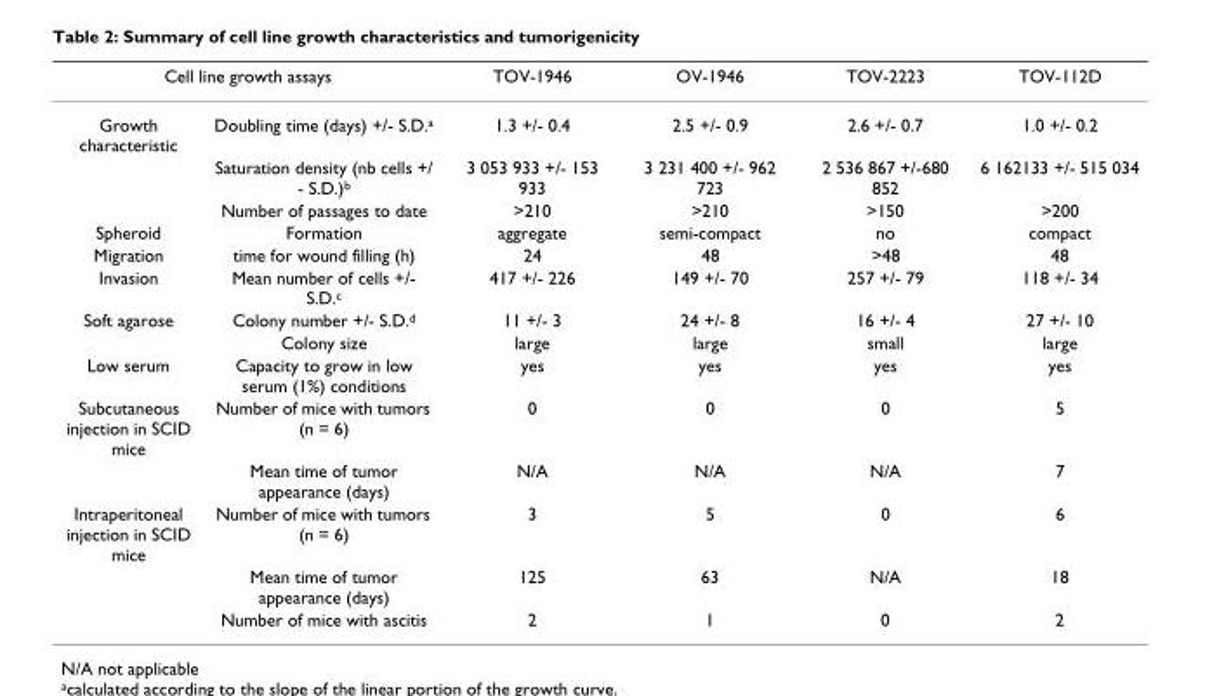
<table><thead><tr><td colspan="2">Cell line growth assays</td><td rowspan="2">TOV-1946 1.3 +/- 0.4</td><td rowspan="2">OV-1946 2.5 +/- 0.9</td><td rowspan="2">TOV-2223 2.6 +/- 0.7</td><td rowspan="2">TOV-112D 1.0 +/- 0.2</td></tr><tr><td>Growth characteristic</td><td>Doubling time (days) +/- S.D.<sup>a</sup></td></tr></thead><tbody><tr><td></td><td>Saturation density (nb cells +/ - S.D.)<sup>b</sup></td><td>3 053 933 +/- 153 933</td><td>3 231 400 +/- 962 723</td><td>2 536 867 +/-680 852</td><td>6 162133 +/- 515 034</td></tr><tr><td></td><td>Number of passages to date</td><td>&gt;210</td><td>&gt;210</td><td>&gt;150</td><td>&gt;200</td></tr><tr><td>Spheroid</td><td>Formation</td><td>aggregate</td><td>semi-compact</td><td>no</td><td>compact</td></tr><tr><td>Migration</td><td>time for wound filling (h)</td><td>24</td><td>48</td><td>&gt;48</td><td>48</td></tr><tr><td>Invasion</td><td>Mean number of cells +/- S.D.<sup>c</sup></td><td>417 +/- 226</td><td>149 +/- 70</td><td>257 +/- 79</td><td>118 +/- 34</td></tr><tr><td rowspan="2">Soft agarose</td><td>Colony number +/- S.D.<sup>d</sup></td><td>11 +/- 3</td><td>24 +/- 8</td><td>16 +/- 4</td><td>27 +/- 10</td></tr><tr><td>Colony size</td><td>large</td><td>large</td><td>small</td><td>large</td></tr><tr><td>Low serum</td><td>Capacity to grow in low serum (1%) conditions</td><td>yes</td><td>yes</td><td>yes</td><td>yes</td></tr><tr><td rowspan="2">Subcutaneous injection in SCID mice</td><td>Number of mice with tumors (n = 6)</td><td>0</td><td>0</td><td>0</td><td>5</td></tr><tr><td>Mean time of tumor appearance (days)</td><td>N/A</td><td>N/A</td><td>N/A</td><td>7</td></tr><tr><td rowspan="3">Intraperitoneal injection in SCID mice</td><td>Number of mice with tumors (n = 6)</td><td>3</td><td>5</td><td>0</td><td>6</td></tr><tr><td>Mean time of tumor appearance (days)</td><td>125</td><td>63</td><td>N/A</td><td>18</td></tr><tr><td>Number of mice with ascitis</td><td>2</td><td>1</td><td>0</td><td>2</td></tr></tbody></table>